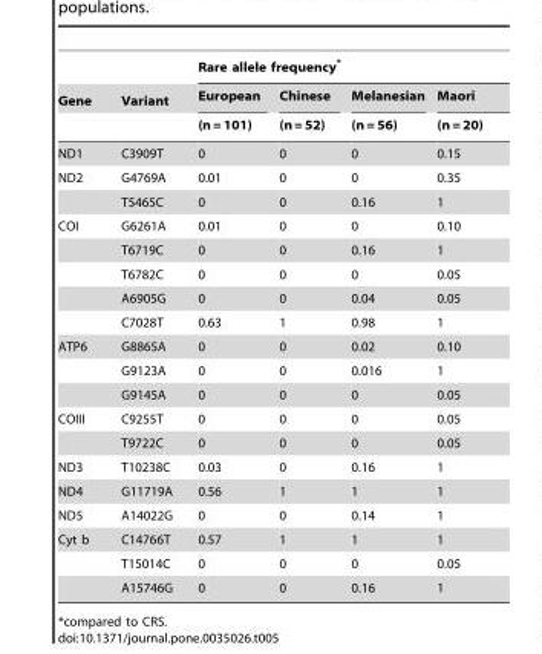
<table><thead><tr><td rowspan="3">Gene</td><td rowspan="3">Variant</td><td colspan="4">Rare allele frequency*</td></tr><tr><td rowspan="2">European (n = 101)</td><td rowspan="2">Chinese (n = 52)</td><td rowspan="2">Melanesian (n = 56)</td><td rowspan="2">Maori (n = 20)</td></tr><tr></tr></thead><tbody><tr><td>ND1</td><td>C3909T</td><td>0</td><td>0</td><td>0</td><td>0.15</td></tr><tr><td rowspan="2">ND2</td><td>G4769A</td><td>0.01</td><td>0</td><td>0</td><td>0.35</td></tr><tr><td>T5465C</td><td>0</td><td>0</td><td>0.16</td><td>1</td></tr><tr><td rowspan="5">COI</td><td>G6261A</td><td>0.01</td><td>0</td><td>0</td><td>0.10</td></tr><tr><td>T6719C</td><td>0</td><td>0</td><td>0.16</td><td>1</td></tr><tr><td>T6782C</td><td>0</td><td>0</td><td>0</td><td>0.05</td></tr><tr><td>A6905G</td><td>0</td><td>0</td><td>0.04</td><td>0.05</td></tr><tr><td>C7028T</td><td>0.63</td><td>1</td><td>0.98</td><td>1</td></tr><tr><td rowspan="3">ATP6</td><td>G8865A</td><td>0</td><td>0</td><td>0.02</td><td>0.10</td></tr><tr><td>G9123A</td><td>0</td><td>0</td><td>0.016</td><td>1</td></tr><tr><td>G9145A</td><td>0</td><td>0</td><td>0</td><td>0.05</td></tr><tr><td rowspan="2">COIII</td><td>C9255T</td><td>0</td><td>0</td><td>0</td><td>0.05</td></tr><tr><td>T9722C</td><td>0</td><td>0</td><td>0</td><td>0.05</td></tr><tr><td>ND3</td><td>T10238C</td><td>0.03</td><td>0</td><td>0.16</td><td>1</td></tr><tr><td>ND4</td><td>G11719A</td><td>0.56</td><td>1</td><td>1</td><td>1</td></tr><tr><td>ND5</td><td>A14022G</td><td>0</td><td>0</td><td>0.14</td><td>1</td></tr><tr><td rowspan="3">Cyt b</td><td>C14766T</td><td>0.57</td><td>1</td><td>1</td><td>1</td></tr><tr><td>T15014C</td><td>0</td><td>0</td><td>0</td><td>0.05</td></tr><tr><td>A15746G</td><td>0</td><td>0</td><td>0.16</td><td>1</td></tr></tbody></table>